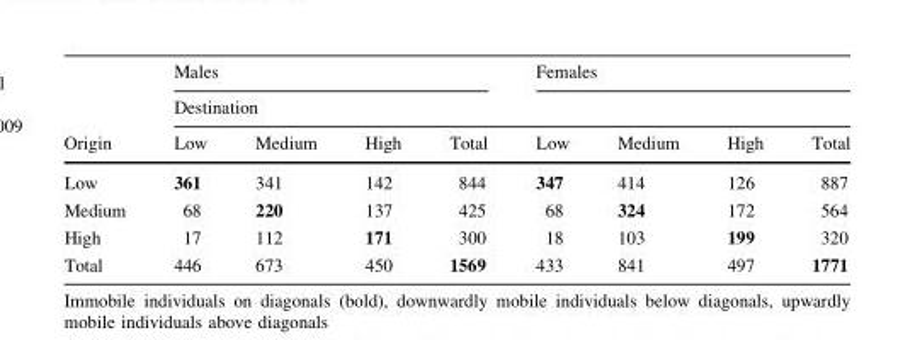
<table><thead><tr><td rowspan="3">Origin</td><td colspan="4">Males</td><td colspan="4">Females</td></tr><tr><td colspan="8">Destination</td></tr><tr><td>Low</td><td>Medium</td><td>High</td><td>Total</td><td>Low</td><td>Medium</td><td>High</td><td>Total</td></tr></thead><tbody><tr><td>Low</td><td>361</td><td>341</td><td>142</td><td>844</td><td>347</td><td>414</td><td>126</td><td>887</td></tr><tr><td>Medium</td><td>68</td><td>220</td><td>137</td><td>425</td><td>68</td><td>324</td><td>172</td><td>564</td></tr><tr><td>High</td><td>17</td><td>112</td><td>171</td><td>300</td><td>18</td><td>103</td><td>199</td><td>320</td></tr><tr><td>Total</td><td>446</td><td>673</td><td>450</td><td>1569</td><td>433</td><td>841</td><td>497</td><td>1771</td></tr></tbody></table>